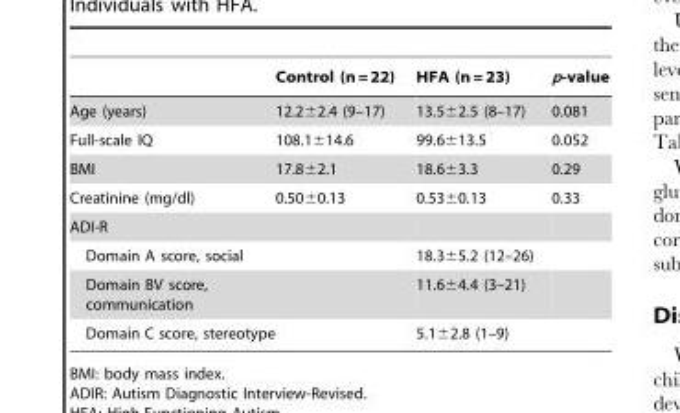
<table><thead><tr><td></td><td>Control (n = 22)</td><td>HFA (n = 23)</td><td>p-value</td></tr></thead><tbody><tr><td>Age (years)</td><td>12.2±2.4 (9–17)</td><td>13.5±2.5 (8–17)</td><td>0.081</td></tr><tr><td>Full-scale IQ</td><td>108.1±14.6</td><td>99.6±13.5</td><td>0.052</td></tr><tr><td>BMI</td><td>17.8±2.1</td><td>18.6±3.3</td><td>0.29</td></tr><tr><td>Creatinine (mg/dl)</td><td>0.50±0.13</td><td>0.53±0.13</td><td>0.33</td></tr><tr><td colspan="4">ADI-R</td></tr><tr><td>Domain A score, social</td><td></td><td>18.3±5.2 (12–26)</td><td></td></tr><tr><td>Domain BV score, communication</td><td></td><td>11.6±4.4 (3–21)</td><td></td></tr><tr><td>Domain C score, stereotype</td><td></td><td>5.1±2.8 (1–9)</td><td></td></tr></tbody></table>